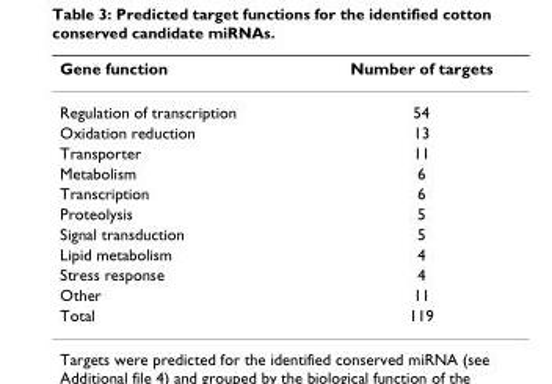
<table><thead><tr><td>Gene function</td><td>Number of targets</td></tr></thead><tbody><tr><td>Regulation of transcription</td><td>54</td></tr><tr><td>Oxidation reduction</td><td>13</td></tr><tr><td>Transporter</td><td>11</td></tr><tr><td>Metabolism</td><td>6</td></tr><tr><td>Transcription</td><td>6</td></tr><tr><td>Proteolysis</td><td>5</td></tr><tr><td>Signal transduction</td><td>5</td></tr><tr><td>Lipid metabolism</td><td>4</td></tr><tr><td>Stress response</td><td>4</td></tr><tr><td>Other</td><td>11</td></tr><tr><td>Total</td><td>119</td></tr></tbody></table>